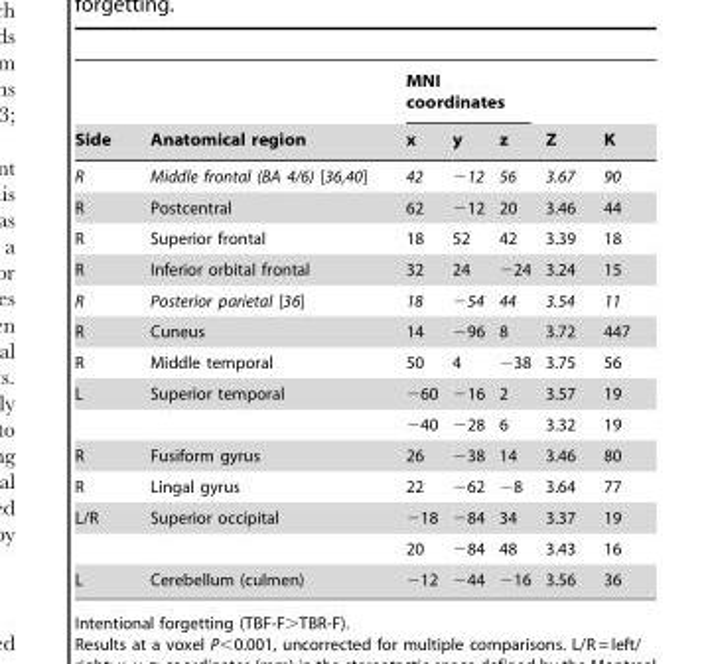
<table><thead><tr><td rowspan="2">Side</td><td rowspan="2">Anatomical region</td><td colspan="3">MNI coordinates</td><td rowspan="2">Z</td><td rowspan="2">K</td></tr><tr><td>x</td><td>y</td><td>z</td></tr></thead><tbody><tr><td>R</td><td>Middle frontal (BA 4/6) [36,40]</td><td>42</td><td>−12</td><td>56</td><td>3.67</td><td>90</td></tr><tr><td>R</td><td>Postcentral</td><td>62</td><td>−12</td><td>20</td><td>3.46</td><td>44</td></tr><tr><td>R</td><td>Superior frontal</td><td>18</td><td>52</td><td>42</td><td>3.39</td><td>18</td></tr><tr><td>R</td><td>Inferior orbital frontal</td><td>32</td><td>24</td><td>−24</td><td>3.24</td><td>15</td></tr><tr><td>R</td><td>Posterior parietal [36]</td><td>18</td><td>−54</td><td>44</td><td>3.54</td><td>11</td></tr><tr><td>R</td><td>Cuneus</td><td>14</td><td>−96</td><td>8</td><td>3.72</td><td>447</td></tr><tr><td>R</td><td>Middle temporal</td><td>50</td><td>4</td><td>−38</td><td>3.75</td><td>56</td></tr><tr><td rowspan="2">L</td><td>Superior temporal</td><td>−60</td><td>−16</td><td>2</td><td>3.57</td><td>19</td></tr><tr><td></td><td>−40</td><td>−28</td><td>6</td><td>3.32</td><td>19</td></tr><tr><td>R</td><td>Fusiform gyrus</td><td>26</td><td>−38</td><td>14</td><td>3.46</td><td>80</td></tr><tr><td>R</td><td>Lingal gyrus</td><td>22</td><td>−62</td><td>−8</td><td>3.64</td><td>77</td></tr><tr><td rowspan="2">L/R</td><td>Superior occipital</td><td>−18</td><td>−84</td><td>34</td><td>3.37</td><td>19</td></tr><tr><td></td><td>20</td><td>−84</td><td>48</td><td>3.43</td><td>16</td></tr><tr><td>L</td><td>Cerebellum (culmen)</td><td>−12</td><td>−44</td><td>−16</td><td>3.56</td><td>36</td></tr></tbody></table>